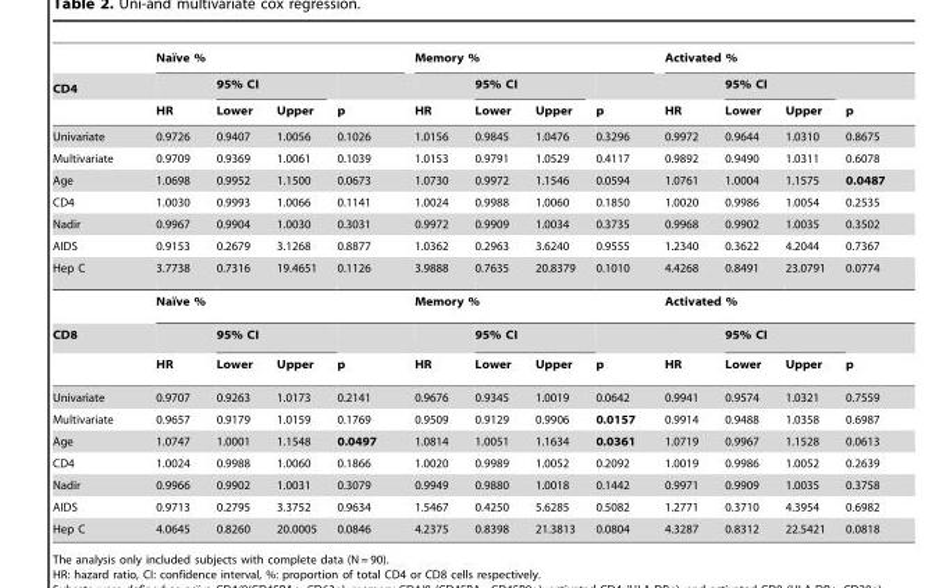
<table><thead><tr><td rowspan="3">CD4</td><td colspan="4">Naı¨ve %</td><td colspan="4">Memory %</td><td colspan="4">Activated %</td></tr><tr><td rowspan="2">HR</td><td colspan="2">95% CI</td><td rowspan="2">p</td><td rowspan="2">HR</td><td colspan="2">95% CI</td><td rowspan="2">p</td><td rowspan="2">HR</td><td colspan="2">95% CI</td><td rowspan="2">p</td></tr><tr><td>Lower</td><td>Upper</td><td>Lower</td><td>Upper</td><td>Lower</td><td>Upper</td></tr></thead><tbody><tr><td>Univariate</td><td>0.9726</td><td>0.9407</td><td>1.0056</td><td>0.1026</td><td>1.0156</td><td>0.9845</td><td>1.0476</td><td>0.3296</td><td>0.9972</td><td>0.9644</td><td>1.0310</td><td>0.8675</td></tr><tr><td>Multivariate</td><td>0.9709</td><td>0.9369</td><td>1.0061</td><td>0.1039</td><td>1.0153</td><td>0.9791</td><td>1.0529</td><td>0.4117</td><td>0.9892</td><td>0.9490</td><td>1.0311</td><td>0.6078</td></tr><tr><td>Age</td><td>1.0698</td><td>0.9952</td><td>1.1500</td><td>0.0673</td><td>1.0730</td><td>0.9972</td><td>1.1546</td><td>0.0594</td><td>1.0761</td><td>1.0004</td><td>1.1575</td><td>0.0487</td></tr><tr><td>CD4</td><td>1.0030</td><td>0.9993</td><td>1.0066</td><td>0.1141</td><td>1.0024</td><td>0.9988</td><td>1.0060</td><td>0.1850</td><td>1.0020</td><td>0.9986</td><td>1.0054</td><td>0.2535</td></tr><tr><td>Nadir</td><td>0.9967</td><td>0.9904</td><td>1.0030</td><td>0.3031</td><td>0.9972</td><td>0.9909</td><td>1.0034</td><td>0.3735</td><td>0.9968</td><td>0.9902</td><td>1.0035</td><td>0.3502</td></tr><tr><td>AIDS</td><td>0.9153</td><td>0.2679</td><td>3.1268</td><td>0.8877</td><td>1.0362</td><td>0.2963</td><td>3.6240</td><td>0.9555</td><td>1.2340</td><td>0.3622</td><td>4.2044</td><td>0.7367</td></tr><tr><td rowspan="2">Hep C</td><td>3.7738</td><td>0.7316</td><td>19.4651</td><td>0.1126</td><td>3.9888</td><td>0.7635</td><td>20.8379</td><td>0.1010</td><td>4.4268</td><td>0.8491</td><td>23.0791</td><td>0.0774</td></tr><tr><td colspan="4">Naı¨ve %</td><td colspan="4">Memory %</td><td colspan="4">Activated %</td></tr><tr><td rowspan="2">CD8</td><td></td><td colspan="2">95% CI</td><td></td><td></td><td colspan="2">95% CI</td><td></td><td></td><td colspan="2">95% CI</td><td></td></tr><tr><td>HR</td><td>Lower</td><td>Upper</td><td>p</td><td>HR</td><td>Lower</td><td>Upper</td><td>p</td><td>HR</td><td>Lower</td><td>Upper</td><td>p</td></tr><tr><td>Univariate</td><td>0.9707</td><td>0.9263</td><td>1.0173</td><td>0.2141</td><td>0.9676</td><td>0.9345</td><td>1.0019</td><td>0.0642</td><td>0.9941</td><td>0.9574</td><td>1.0321</td><td>0.7559</td></tr><tr><td>Multivariate</td><td>0.9657</td><td>0.9179</td><td>1.0159</td><td>0.1769</td><td>0.9509</td><td>0.9129</td><td>0.9906</td><td>0.0157</td><td>0.9914</td><td>0.9488</td><td>1.0358</td><td>0.6987</td></tr><tr><td>Age</td><td>1.0747</td><td>1.0001</td><td>1.1548</td><td>0.0497</td><td>1.0814</td><td>1.0051</td><td>1.1634</td><td>0.0361</td><td>1.0719</td><td>0.9967</td><td>1.1528</td><td>0.0613</td></tr><tr><td>CD4</td><td>1.0024</td><td>0.9988</td><td>1.0060</td><td>0.1866</td><td>1.0020</td><td>0.9989</td><td>1.0052</td><td>0.2092</td><td>1.0019</td><td>0.9986</td><td>1.0052</td><td>0.2639</td></tr><tr><td>Nadir</td><td>0.9966</td><td>0.9902</td><td>1.0031</td><td>0.3079</td><td>0.9949</td><td>0.9880</td><td>1.0018</td><td>0.1442</td><td>0.9971</td><td>0.9909</td><td>1.0035</td><td>0.3758</td></tr><tr><td>AIDS</td><td>0.9713</td><td>0.2795</td><td>3.3752</td><td>0.9634</td><td>1.5467</td><td>0.4250</td><td>5.6285</td><td>0.5082</td><td>1.2771</td><td>0.3710</td><td>4.3954</td><td>0.6982</td></tr><tr><td>Hep C</td><td>4.0645</td><td>0.8260</td><td>20.0005</td><td>0.0846</td><td>4.2375</td><td>0.8398</td><td>21.3813</td><td>0.0804</td><td>4.3287</td><td>0.8312</td><td>22.5421</td><td>0.0818</td></tr></tbody></table>